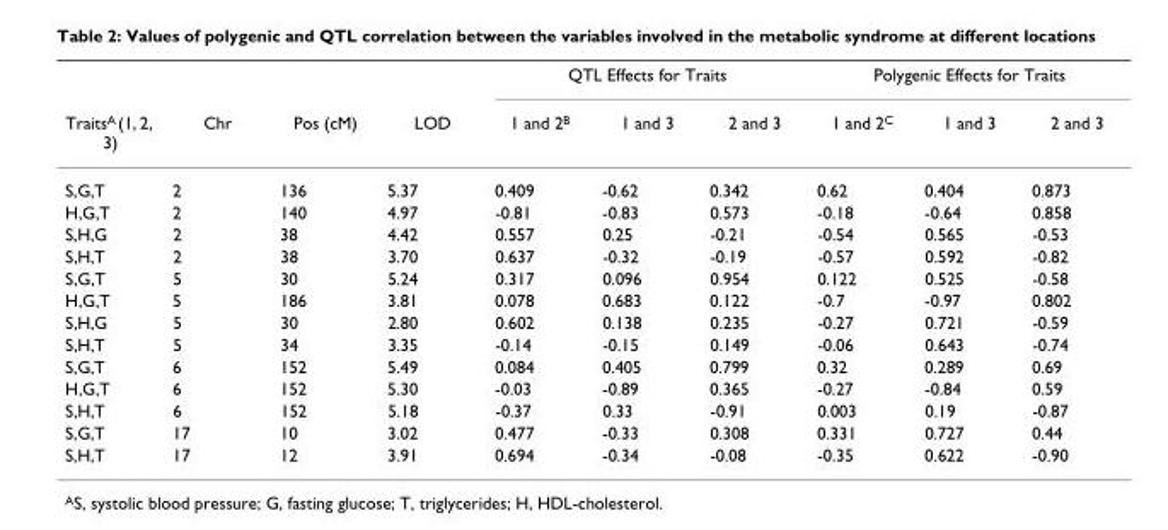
<table><thead><tr><td rowspan="2">TraitsA (1, 2, 3)</td><td rowspan="2">Chr</td><td rowspan="2">Pos (cM)</td><td rowspan="2">LOD</td><td colspan="3">QTL Effects for Traits</td><td colspan="3">Polygenic Effects for Traits</td></tr><tr><td>1 and 2B</td><td>1 and 3</td><td>2 and 3</td><td>1 and 2C</td><td>1 and 3</td><td>2 and 3</td></tr></thead><tbody><tr><td>S,G,T</td><td>2</td><td>136</td><td>5.37</td><td>0.409</td><td>-0.62</td><td>0.342</td><td>0.62</td><td>0.404</td><td>0.873</td></tr><tr><td>H,G,T</td><td>2</td><td>140</td><td>4.97</td><td>-0.81</td><td>-0.83</td><td>0.573</td><td>-0.18</td><td>-0.64</td><td>0.858</td></tr><tr><td>S,H,G</td><td>2</td><td>38</td><td>4.42</td><td>0.557</td><td>0.25</td><td>-0.21</td><td>-0.54</td><td>0.565</td><td>-0.53</td></tr><tr><td>S,H,T</td><td>2</td><td>38</td><td>3.70</td><td>0.637</td><td>-0.32</td><td>-0.19</td><td>-0.57</td><td>0.592</td><td>-0.82</td></tr><tr><td>S,G,T</td><td>5</td><td>30</td><td>5.24</td><td>0.317</td><td>0.096</td><td>0.954</td><td>0.122</td><td>0.525</td><td>-0.58</td></tr><tr><td>H,G,T</td><td>5</td><td>186</td><td>3.81</td><td>0.078</td><td>0.683</td><td>0.122</td><td>-0.7</td><td>-0.97</td><td>0.802</td></tr><tr><td>S,H,G</td><td>5</td><td>30</td><td>2.80</td><td>0.602</td><td>0.138</td><td>0.235</td><td>-0.27</td><td>0.721</td><td>-0.59</td></tr><tr><td>S,H,T</td><td>5</td><td>34</td><td>3.35</td><td>-0.14</td><td>-0.15</td><td>0.149</td><td>-0.06</td><td>0.643</td><td>-0.74</td></tr><tr><td>S,G,T</td><td>6</td><td>152</td><td>5.49</td><td>0.084</td><td>0.405</td><td>0.799</td><td>0.32</td><td>0.289</td><td>0.69</td></tr><tr><td>H,G,T</td><td>6</td><td>152</td><td>5.30</td><td>-0.03</td><td>-0.89</td><td>0.365</td><td>-0.27</td><td>-0.84</td><td>0.59</td></tr><tr><td>S,H,T</td><td>6</td><td>152</td><td>5.18</td><td>-0.37</td><td>0.33</td><td>-0.91</td><td>0.003</td><td>0.19</td><td>-0.87</td></tr><tr><td>S,G,T</td><td>17</td><td>10</td><td>3.02</td><td>0.477</td><td>-0.33</td><td>0.308</td><td>0.331</td><td>0.727</td><td>0.44</td></tr><tr><td>S,H,T</td><td>17</td><td>12</td><td>3.91</td><td>0.694</td><td>-0.34</td><td>-0.08</td><td>-0.35</td><td>0.622</td><td>-0.90</td></tr></tbody></table>